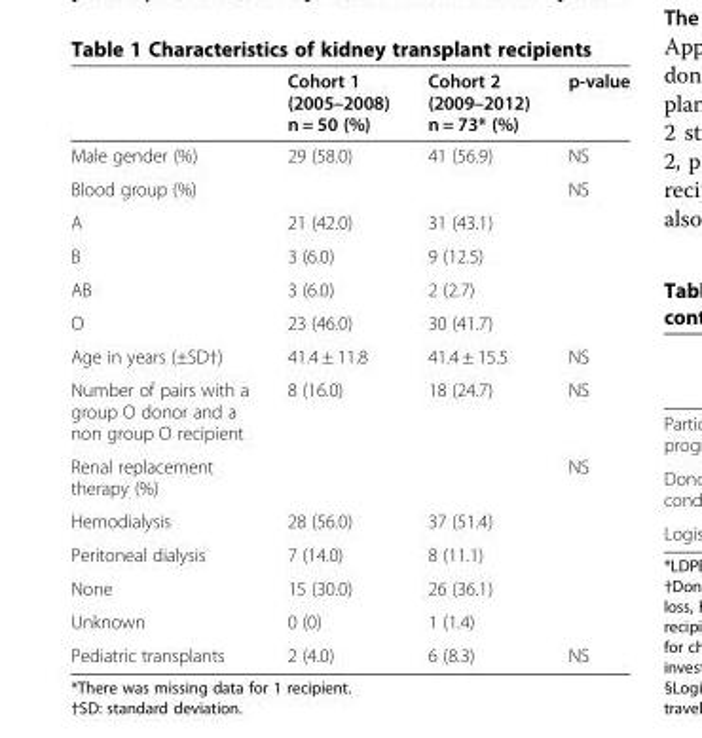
<table><thead><tr><td></td><td>Cohort 1 (2005–2008) n = 50 (%)</td><td>Cohort 2 (2009–2012) n = 73* (%)</td><td>p-value</td></tr></thead><tbody><tr><td>Male gender (%)</td><td>29 (58.0)</td><td>41 (56.9)</td><td>NS</td></tr><tr><td>Blood group (%)</td><td></td><td></td><td>NS</td></tr><tr><td>A</td><td>21 (42.0)</td><td>31 (43.1)</td><td></td></tr><tr><td>B</td><td>3 (6.0)</td><td>9 (12.5)</td><td></td></tr><tr><td>AB</td><td>3 (6.0)</td><td>2 (2.7)</td><td></td></tr><tr><td>O</td><td>23 (46.0)</td><td>30 (41.7)</td><td></td></tr><tr><td>Age in years (±SD†)</td><td>41.4 ± 11.8</td><td>41.4 ± 15.5</td><td>NS</td></tr><tr><td>Number of pairs with a group O donor and a non group O recipient</td><td>8 (16.0)</td><td>18 (24.7)</td><td>NS</td></tr><tr><td>Renal replacement therapy (%)</td><td></td><td></td><td>NS</td></tr><tr><td>Hemodialysis</td><td>28 (56.0)</td><td>37 (51.4)</td><td></td></tr><tr><td>Peritoneal dialysis</td><td>7 (14.0)</td><td>8 (11.1)</td><td></td></tr><tr><td>None</td><td>15 (30.0)</td><td>26 (36.1)</td><td></td></tr><tr><td>Unknown</td><td>0 (0)</td><td>1 (1.4)</td><td></td></tr><tr><td>Pediatric transplants</td><td>2 (4.0)</td><td>6 (8.3)</td><td>NS</td></tr></tbody></table>